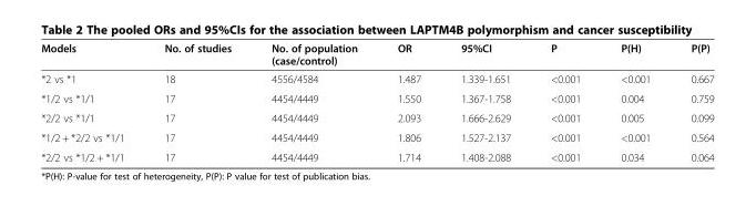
<table><thead><tr><td>Models</td><td>No. of studies</td><td>No. of population (case/control)</td><td>OR</td><td>95%CI</td><td>P</td><td>P(H)</td><td>P(P)</td></tr></thead><tbody><tr><td>*2 vs *1</td><td>18</td><td>4556/4584</td><td>1.487</td><td>1.339-1.651</td><td>&lt;0.001</td><td>&lt;0.001</td><td>0.667</td></tr><tr><td>*1/2 vs *1/1</td><td>17</td><td>4454/4449</td><td>1.550</td><td>1.367-1.758</td><td>&lt;0.001</td><td>0.004</td><td>0.759</td></tr><tr><td>*2/2 vs *1/1</td><td>17</td><td>4454/4449</td><td>2.093</td><td>1.666-2.629</td><td>&lt;0.001</td><td>0.005</td><td>0.099</td></tr><tr><td>*1/2 + *2/2 vs *1/1</td><td>17</td><td>4454/4449</td><td>1.806</td><td>1.527-2.137</td><td>&lt;0.001</td><td>&lt;0.001</td><td>0.564</td></tr><tr><td>*2/2 vs *1/2 + *1/1</td><td>17</td><td>4454/4449</td><td>1.714</td><td>1.408-2.088</td><td>&lt;0.001</td><td>0.034</td><td>0.064</td></tr></tbody></table>